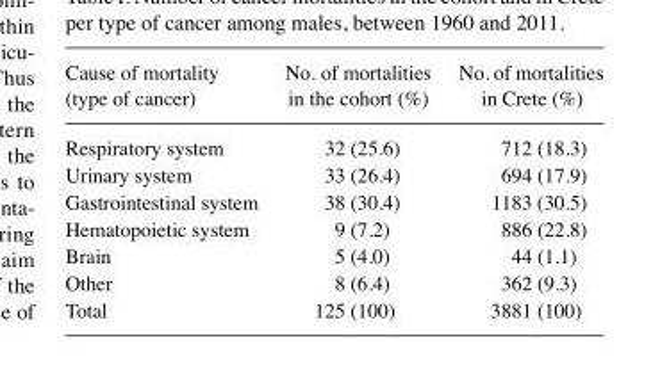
<table><thead><tr><td>Cause of mortality (type of cancer)</td><td>No. of mortalities in the cohort (%)</td><td>No. of mortalities in Crete (%)</td></tr></thead><tbody><tr><td>Respiratory system</td><td>32 (25.6)</td><td>712 (18.3)</td></tr><tr><td>Urinary system</td><td>33 (26.4)</td><td>694 (17.9)</td></tr><tr><td>Gastrointestinal system</td><td>38 (30.4)</td><td>1183 (30.5)</td></tr><tr><td>Hematopoietic system</td><td>9 (7.2)</td><td>886 (22.8)</td></tr><tr><td>Brain</td><td>5 (4.0)</td><td>44 (1.1)</td></tr><tr><td>Other</td><td>8 (6.4)</td><td>362 (9.3)</td></tr><tr><td>Total</td><td>125 (100)</td><td>3881 (100)</td></tr></tbody></table>